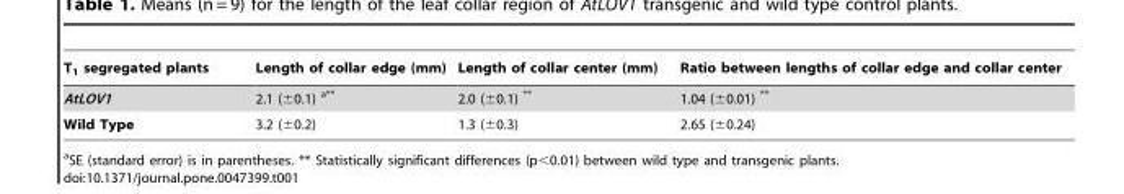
<table><thead><tr><td>T<sub>1</sub> segregated plants</td><td>Length of collar edge (mm)</td><td>Length of collar center (mm)</td><td>Ratio between lengths of collar edge and collar center</td></tr></thead><tbody><tr><td>AtLOV1</td><td>2.1 (±0.1) <sup>a**</sup></td><td>2.0 (±0.1) **</td><td>1.04 (±0.01) **</td></tr><tr><td>Wild Type</td><td>3.2 (±0.2)</td><td>1.3 (±0.3)</td><td>2.65 (±0.24)</td></tr></tbody></table>